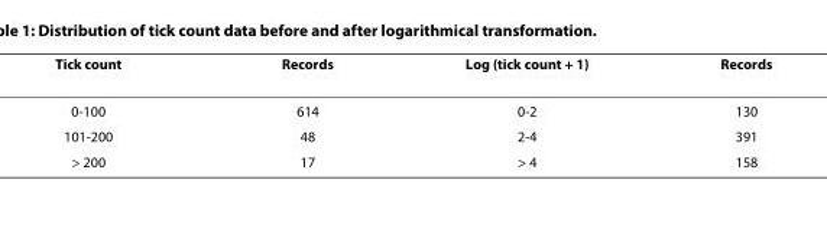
<table><thead><tr><td>Tick count</td><td>Records</td><td>Log (tick count + 1)</td><td>Records</td></tr></thead><tbody><tr><td>0-100</td><td>614</td><td>0-2</td><td>130</td></tr><tr><td>101-200</td><td>48</td><td>2-4</td><td>391</td></tr><tr><td>&gt; 200</td><td>17</td><td>&gt; 4</td><td>158</td></tr></tbody></table>